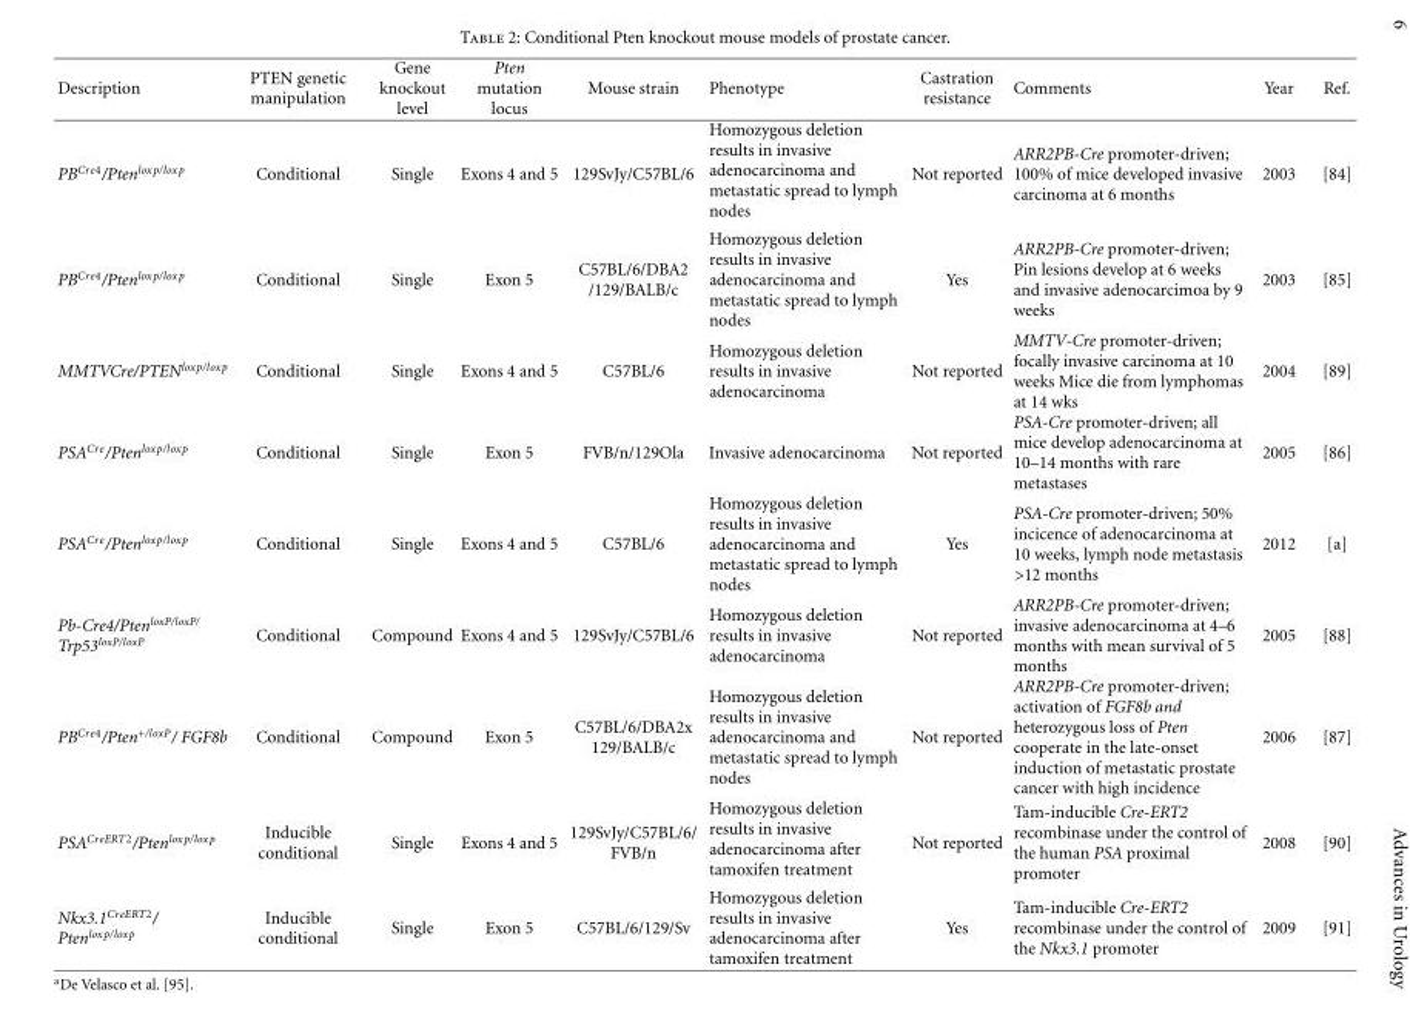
<table><thead><tr><td>Description</td><td>PTEN genetic manipulation</td><td>Gene knockout level</td><td>Pten mutation locus</td><td>Mouse strain</td><td>Phenotype</td><td>Castration resistance</td><td>Comments</td><td>Year</td><td>Ref.</td></tr></thead><tbody><tr><td>PB<sup>Cre4</sup>/Pten<sup>loxp/loxp</sup></td><td>Conditional</td><td>Single</td><td>Exons 4 and 5</td><td>129SvJy/C57BL/6</td><td>Homozygous deletion results in invasive adenocarcinoma and metastatic spread to lymph nodes</td><td>Not reported</td><td>ARR2PB-Cre promoter-driven; 100% of mice developed invasive carcinoma at 6 months</td><td>2003</td><td>[84]</td></tr><tr><td>PB<sup>Cre4</sup>/Pten<sup>loxp/loxp</sup></td><td>Conditional</td><td>Single</td><td>Exon 5</td><td>C57BL/6/DBA2 /129/BALB/c</td><td>Homozygous deletion results in invasive adenocarcinoma and metastatic spread to lymph nodes</td><td>Yes</td><td>ARR2PB-Cre promoter-driven; Pin lesions develop at 6 weeks and invasive adenocarcimoa by 9 weeks</td><td>2003</td><td>[85]</td></tr><tr><td>MMTVCre/PTEN<sup>loxp/loxp</sup></td><td>Conditional</td><td>Single</td><td>Exons 4 and 5</td><td>C57BL/6</td><td>Homozygous deletion results in invasive adenocarcinoma</td><td>Not reported</td><td>MMTV-Cre promoter-driven; focally invasive carcinoma at 10 weeks Mice die from lymphomas at 14 wks</td><td>2004</td><td>[89]</td></tr><tr><td>PSA<sup>Cre</sup>/Pten<sup>loxp/loxp</sup></td><td>Conditional</td><td>Single</td><td>Exon 5</td><td>FVB/n/129Ola</td><td>Invasive adenocarcinoma</td><td>Not reported</td><td>PSA-Cre promoter-driven; all mice develop adenocarcinoma at 10–14 months with rare metastases</td><td>2005</td><td>[86]</td></tr><tr><td>PSA<sup>Cre</sup>/Pten<sup>loxp/loxp</sup></td><td>Conditional</td><td>Single</td><td>Exons 4 and 5</td><td>C57BL/6</td><td>Homozygous deletion results in invasive adenocarcinoma and metastatic spread to lymph nodes</td><td>Yes</td><td>PSA-Cre promoter-driven; 50% incicence of adenocarcinoma at 10 weeks, lymph node metastasis &gt;12 months</td><td>2012</td><td>[a]</td></tr><tr><td>Pb-Cre4/Pten<sup>loxP/loxP/</sup> Trp53<sup>loxP/loxP</sup></td><td>Conditional</td><td>Compound</td><td>Exons 4 and 5</td><td>129SvJy/C57BL/6</td><td>Homozygous deletion results in invasive adenocarcinoma</td><td>Not reported</td><td>ARR2PB-Cre promoter-driven; invasive adenocarcinoma at 4–6 months with mean survival of 5 months</td><td>2005</td><td>[88]</td></tr><tr><td>PB<sup>Cre4</sup>/Pten<sup>+/loxP</sup>/ FGF8b</td><td>Conditional</td><td>Compound</td><td>Exon 5</td><td>C57BL/6/DBA2x 129/BALB/c</td><td>Homozygous deletion results in invasive adenocarcinoma and metastatic spread to lymph nodes</td><td>Not reported</td><td>ARR2PB-Cre promoter-driven; activation of FGF8b and heterozygous loss of Pten cooperate in the late-onset induction of metastatic prostate cancer with high incidence</td><td>2006</td><td>[87]</td></tr><tr><td>PSA<sup>CreERT2</sup>/Pten<sup>loxp/loxp</sup></td><td>Inducible conditional</td><td>Single</td><td>Exons 4 and 5</td><td>129SvJy/C57BL/6/ FVB/n</td><td>Homozygous deletion results in invasive adenocarcinoma after tamoxifen treatment</td><td>Not reported</td><td>Tam-inducible Cre-ERT2 recombinase under the control of the human PSA proximal promoter</td><td>2008</td><td>[90]</td></tr><tr><td>Nkx3.1<sup>CreERT2</sup>/ Pten<sup>loxp/loxp</sup></td><td>Inducible conditional</td><td>Single</td><td>Exon 5</td><td>C57BL/6/129/Sv</td><td>Homozygous deletion results in invasive adenocarcinoma after tamoxifen treatment</td><td>Yes</td><td>Tam-inducible Cre-ERT2 recombinase under the control of the Nkx3.1 promoter</td><td>2009</td><td>[91]</td></tr></tbody></table>